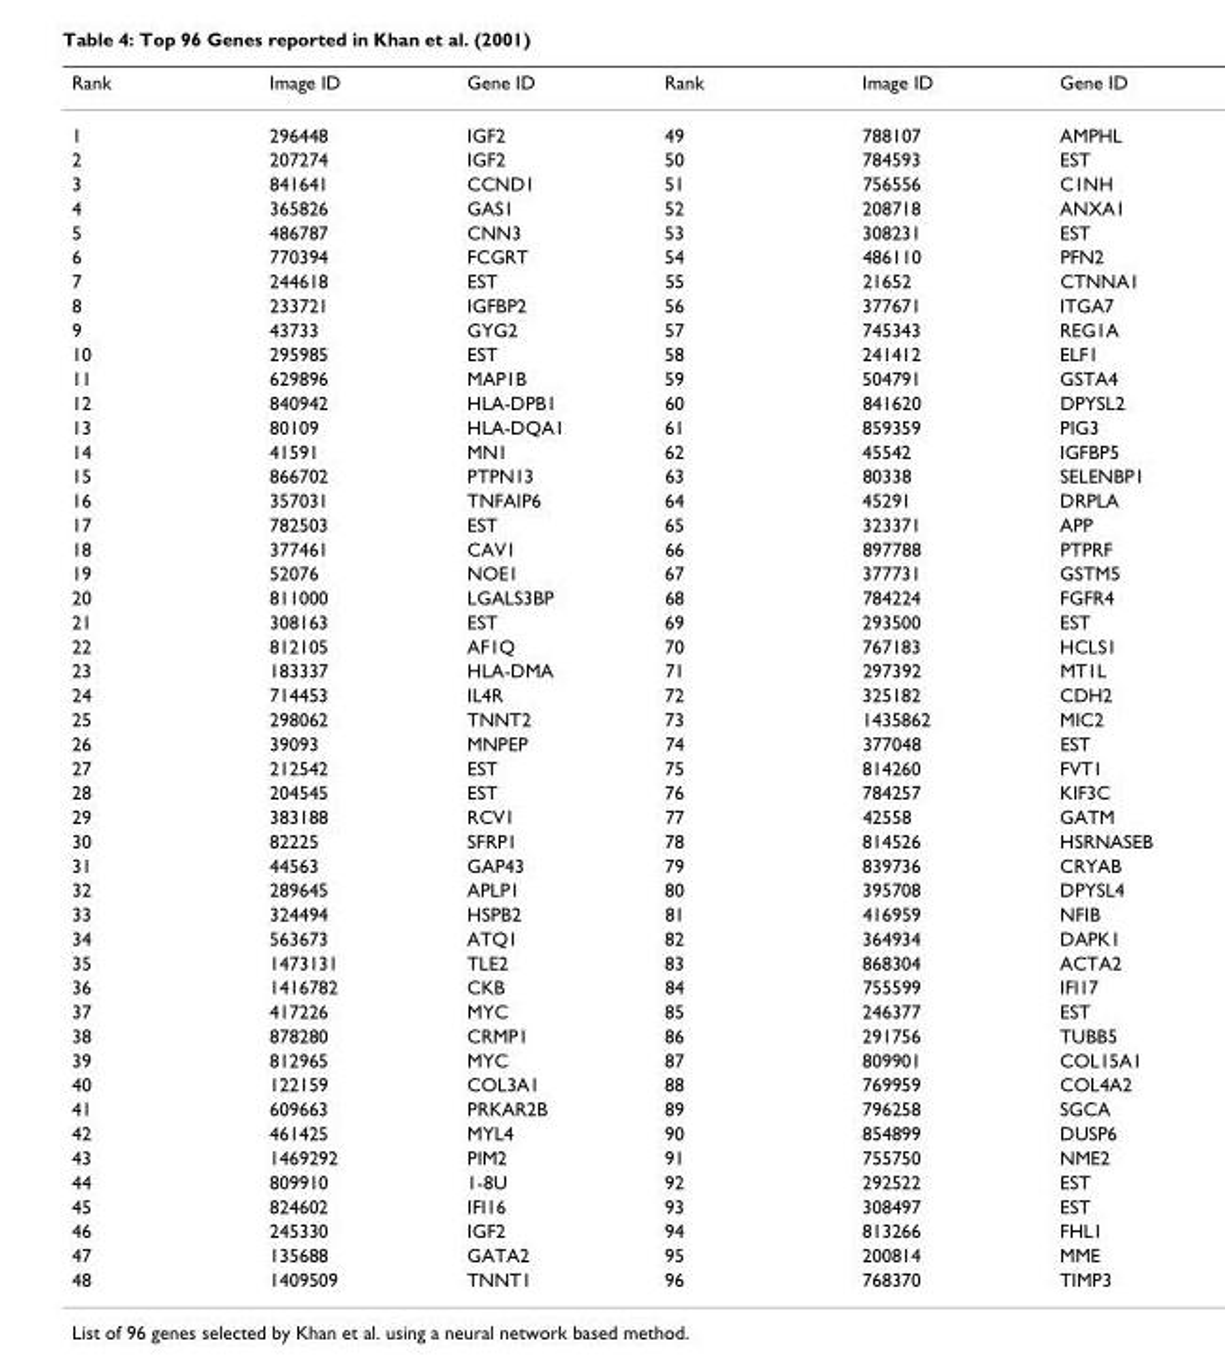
<table><thead><tr><td>Rank</td><td>Image ID</td><td>Gene ID</td><td>Rank</td><td>Image ID</td><td>Gene ID</td></tr></thead><tbody><tr><td>1</td><td>296448</td><td>IGF2</td><td>49</td><td>788107</td><td>AMPHL</td></tr><tr><td>2</td><td>207274</td><td>IGF2</td><td>50</td><td>784593</td><td>EST</td></tr><tr><td>3</td><td>841641</td><td>CCND1</td><td>51</td><td>756556</td><td>C1NH</td></tr><tr><td>4</td><td>365826</td><td>GAS1</td><td>52</td><td>208718</td><td>ANXA1</td></tr><tr><td>5</td><td>486787</td><td>CNN3</td><td>53</td><td>308231</td><td>EST</td></tr><tr><td>6</td><td>770394</td><td>FCGRT</td><td>54</td><td>486110</td><td>PFN2</td></tr><tr><td>7</td><td>244618</td><td>EST</td><td>55</td><td>21652</td><td>CTNNA1</td></tr><tr><td>8</td><td>233721</td><td>IGFBP2</td><td>56</td><td>377671</td><td>ITGA7</td></tr><tr><td>9</td><td>43733</td><td>GYG2</td><td>57</td><td>745343</td><td>REG1A</td></tr><tr><td>10</td><td>295985</td><td>EST</td><td>58</td><td>241412</td><td>ELF1</td></tr><tr><td>11</td><td>629896</td><td>MAP1B</td><td>59</td><td>504791</td><td>GSTA4</td></tr><tr><td>12</td><td>840942</td><td>HLA-DPB1</td><td>60</td><td>841620</td><td>DPYSL2</td></tr><tr><td>13</td><td>80109</td><td>HLA-DQA1</td><td>61</td><td>859359</td><td>PIG3</td></tr><tr><td>14</td><td>41591</td><td>MN1</td><td>62</td><td>45542</td><td>IGFBP5</td></tr><tr><td>15</td><td>866702</td><td>PTPN13</td><td>63</td><td>80338</td><td>SELENBP1</td></tr><tr><td>16</td><td>357031</td><td>TNFAIP6</td><td>64</td><td>45291</td><td>DRPLA</td></tr><tr><td>17</td><td>782503</td><td>EST</td><td>65</td><td>323371</td><td>APP</td></tr><tr><td>18</td><td>377461</td><td>CAV1</td><td>66</td><td>897788</td><td>PTPRF</td></tr><tr><td>19</td><td>52076</td><td>NOE1</td><td>67</td><td>377731</td><td>GSTM5</td></tr><tr><td>20</td><td>811000</td><td>LGALS3BP</td><td>68</td><td>784224</td><td>FGFR4</td></tr><tr><td>21</td><td>308163</td><td>EST</td><td>69</td><td>293500</td><td>EST</td></tr><tr><td>22</td><td>812105</td><td>AF1Q</td><td>70</td><td>767183</td><td>HCLS1</td></tr><tr><td>23</td><td>183337</td><td>HLA-DMA</td><td>71</td><td>297392</td><td>MT1L</td></tr><tr><td>24</td><td>714453</td><td>IL4R</td><td>72</td><td>325182</td><td>CDH2</td></tr><tr><td>25</td><td>298062</td><td>TNNT2</td><td>73</td><td>1435862</td><td>MIC2</td></tr><tr><td>26</td><td>39093</td><td>MNPEP</td><td>74</td><td>377048</td><td>EST</td></tr><tr><td>27</td><td>212542</td><td>EST</td><td>75</td><td>814260</td><td>FVT1</td></tr><tr><td>28</td><td>204545</td><td>EST</td><td>76</td><td>784257</td><td>KIF3C</td></tr><tr><td>29</td><td>383188</td><td>RCV1</td><td>77</td><td>42558</td><td>GATM</td></tr><tr><td>30</td><td>82225</td><td>SFRP1</td><td>78</td><td>814526</td><td>HSRNASEB</td></tr><tr><td>31</td><td>44563</td><td>GAP43</td><td>79</td><td>839736</td><td>CRYAB</td></tr><tr><td>32</td><td>289645</td><td>APLP1</td><td>80</td><td>395708</td><td>DPYSL4</td></tr><tr><td>33</td><td>324494</td><td>HSPB2</td><td>81</td><td>416959</td><td>NFIB</td></tr><tr><td>34</td><td>563673</td><td>ATQ1</td><td>82</td><td>364934</td><td>DAPK1</td></tr><tr><td>35</td><td>1473131</td><td>TLE2</td><td>83</td><td>868304</td><td>ACTA2</td></tr><tr><td>36</td><td>1416782</td><td>CKB</td><td>84</td><td>755599</td><td>IFI17</td></tr><tr><td>37</td><td>417226</td><td>MYC</td><td>85</td><td>246377</td><td>EST</td></tr><tr><td>38</td><td>878280</td><td>CRMP1</td><td>86</td><td>291756</td><td>TUBB5</td></tr><tr><td>39</td><td>812965</td><td>MYC</td><td>87</td><td>809901</td><td>COL15A1</td></tr><tr><td>40</td><td>122159</td><td>COL3A1</td><td>88</td><td>769959</td><td>COL4A2</td></tr><tr><td>41</td><td>609663</td><td>PRKAR2B</td><td>89</td><td>796258</td><td>SGCA</td></tr><tr><td>42</td><td>461425</td><td>MYL4</td><td>90</td><td>854899</td><td>DUSP6</td></tr><tr><td>43</td><td>1469292</td><td>PIM2</td><td>91</td><td>755750</td><td>NME2</td></tr><tr><td>44</td><td>809910</td><td>1-8U</td><td>92</td><td>292522</td><td>EST</td></tr><tr><td>45</td><td>824602</td><td>IFI16</td><td>93</td><td>308497</td><td>EST</td></tr><tr><td>46</td><td>245330</td><td>IGF2</td><td>94</td><td>813266</td><td>FHL1</td></tr><tr><td>47</td><td>135688</td><td>GATA2</td><td>95</td><td>200814</td><td>MME</td></tr><tr><td>48</td><td>1409509</td><td>TNNT1</td><td>96</td><td>768370</td><td>TIMP3</td></tr></tbody></table>